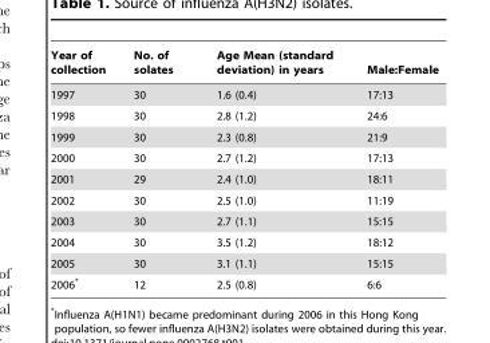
<table><thead><tr><td>Year of collection</td><td>No. of solates</td><td>Age Mean (standard deviation) in years</td><td>Male:Female</td></tr></thead><tbody><tr><td>1997</td><td>30</td><td>1.6 (0.4)</td><td>17:13</td></tr><tr><td>1998</td><td>30</td><td>2.8 (1.2)</td><td>24:6</td></tr><tr><td>1999</td><td>30</td><td>2.3 (0.8)</td><td>21:9</td></tr><tr><td>2000</td><td>30</td><td>2.7 (1.2)</td><td>17:13</td></tr><tr><td>2001</td><td>29</td><td>2.4 (1.0)</td><td>18:11</td></tr><tr><td>2002</td><td>30</td><td>2.5 (1.0)</td><td>11:19</td></tr><tr><td>2003</td><td>30</td><td>2.7 (1.1)</td><td>15:15</td></tr><tr><td>2004</td><td>30</td><td>3.5 (1.2)</td><td>18:12</td></tr><tr><td>2005</td><td>30</td><td>3.1 (1.1)</td><td>15:15</td></tr><tr><td>2006*</td><td>12</td><td>2.5 (0.8)</td><td>6:6</td></tr></tbody></table>